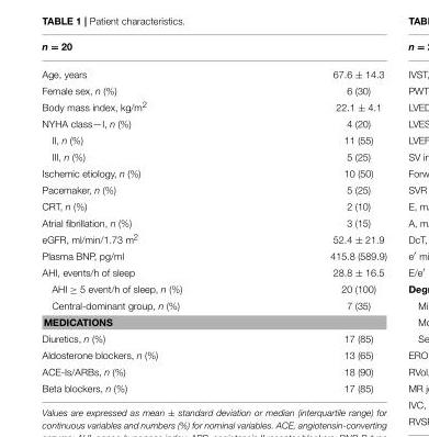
<table><thead><tr><td>n = 20</td><td></td></tr></thead><tbody><tr><td>Age, years</td><td>67.6 ± 14.3</td></tr><tr><td>Female sex, n (%)</td><td>6 (30)</td></tr><tr><td>Body mass index, kg/m<sup>2</sup></td><td>22.1 ± 4.1</td></tr><tr><td>NYHA class—I, n (%)</td><td>4 (20)</td></tr><tr><td>II, n (%)</td><td>11 (55)</td></tr><tr><td>III, n (%)</td><td>5 (25)</td></tr><tr><td>Ischemic etiology, n (%)</td><td>10 (50)</td></tr><tr><td>Pacemaker, n (%)</td><td>5 (25)</td></tr><tr><td>CRT, n (%)</td><td>2 (10)</td></tr><tr><td>Atrial fibrillation, n (%)</td><td>3 (15)</td></tr><tr><td>eGFR, ml/min/1.73 m<sup>2</sup></td><td>52.4 ± 21.9</td></tr><tr><td>Plasma BNP, pg/ml</td><td>415.8 (589.9)</td></tr><tr><td>AHI, events/h of sleep</td><td>28.8 ± 16.5</td></tr><tr><td>AHI ≥ 5 event/h of sleep, n (%)</td><td>20 (100)</td></tr><tr><td>Central-dominant group, n (%)</td><td>7 (35)</td></tr><tr><td colspan="2">MEDICATIONS</td></tr><tr><td>Diuretics, n (%)</td><td>17 (85)</td></tr><tr><td>Aldosterone blockers, n (%)</td><td>13 (65)</td></tr><tr><td>ACE-Is/ARBs, n (%)</td><td>18 (90)</td></tr><tr><td>Beta blockers, n (%)</td><td>17 (85)</td></tr></tbody></table>